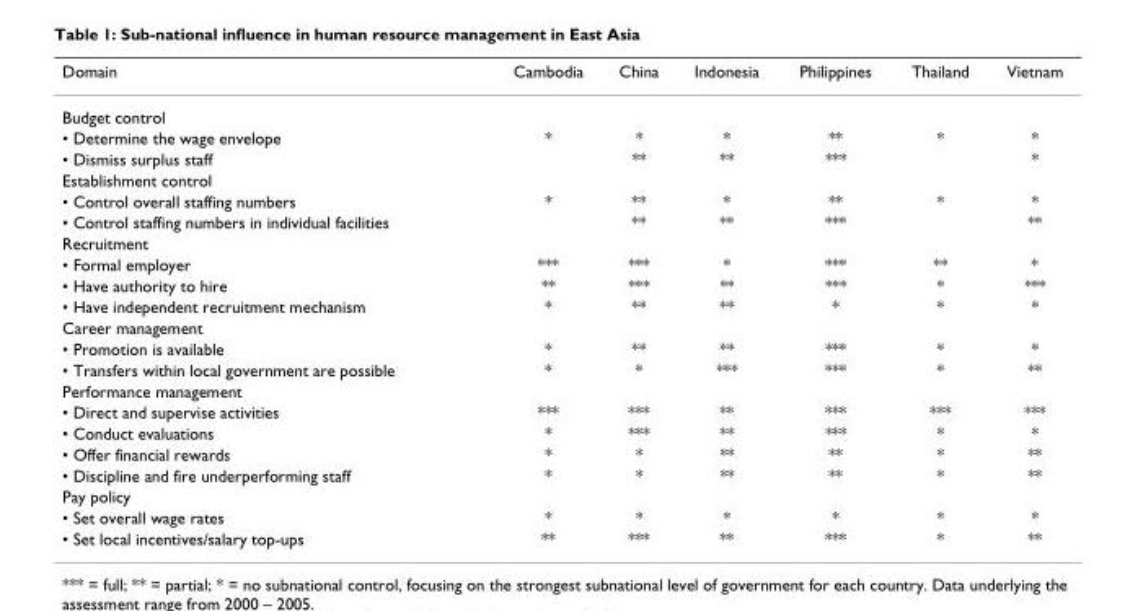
<table><thead><tr><td>Domain</td><td>Cambodia</td><td>China</td><td>Indonesia</td><td>Philippines</td><td>Thailand</td><td>Vietnam</td></tr></thead><tbody><tr><td colspan="7">Budget control</td></tr><tr><td>• Determine the wage envelope</td><td>*</td><td>*</td><td>*</td><td>**</td><td>*</td><td>*</td></tr><tr><td>• Dismiss surplus staff</td><td></td><td>**</td><td>**</td><td>***</td><td></td><td>*</td></tr><tr><td colspan="7">Establishment control</td></tr><tr><td>• Control overall staffing numbers</td><td>*</td><td>**</td><td>*</td><td>**</td><td>*</td><td>*</td></tr><tr><td>• Control staffing numbers in individual facilities</td><td></td><td>**</td><td>**</td><td>***</td><td></td><td>**</td></tr><tr><td colspan="7">Recruitment</td></tr><tr><td>• Formal employer</td><td>***</td><td>***</td><td>*</td><td>***</td><td>**</td><td>*</td></tr><tr><td>• Have authority to hire</td><td>**</td><td>***</td><td>**</td><td>***</td><td>*</td><td>***</td></tr><tr><td>• Have independent recruitment mechanism</td><td>*</td><td>**</td><td>**</td><td>*</td><td>*</td><td>*</td></tr><tr><td colspan="7">Career management</td></tr><tr><td>• Promotion is available</td><td>*</td><td>**</td><td>**</td><td>***</td><td>*</td><td>*</td></tr><tr><td>• Transfers within local government are possible</td><td>*</td><td>*</td><td>***</td><td>***</td><td>*</td><td>**</td></tr><tr><td colspan="7">Performance management</td></tr><tr><td>• Direct and supervise activities</td><td>***</td><td>***</td><td>**</td><td>***</td><td>***</td><td>***</td></tr><tr><td>• Conduct evaluations</td><td>*</td><td>***</td><td>**</td><td>***</td><td>*</td><td>*</td></tr><tr><td>• Offer financial rewards</td><td>*</td><td>*</td><td>**</td><td>**</td><td>*</td><td>**</td></tr><tr><td>• Discipline and fire underperforming staff</td><td>*</td><td>*</td><td>**</td><td>**</td><td>*</td><td>**</td></tr><tr><td colspan="7">Pay policy</td></tr><tr><td>• Set overall wage rates</td><td>*</td><td>*</td><td>*</td><td>*</td><td>*</td><td>*</td></tr><tr><td>• Set local incentives/salary top-ups</td><td>**</td><td>***</td><td>**</td><td>***</td><td>*</td><td>**</td></tr></tbody></table>